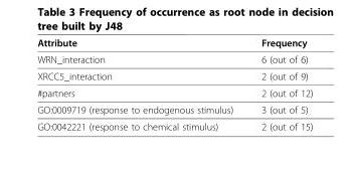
<table><thead><tr><td>Attribute</td><td>Frequency</td></tr></thead><tbody><tr><td>WRN_interaction</td><td>6 (out of 6)</td></tr><tr><td>XRCC5_interaction</td><td>2 (out of 9)</td></tr><tr><td>#partners</td><td>2 (out of 12)</td></tr><tr><td>GO:0009719 (response to endogenous stimulus)</td><td>3 (out of 5)</td></tr><tr><td>GO:0042221 (response to chemical stimulus)</td><td>2 (out of 15)</td></tr></tbody></table>